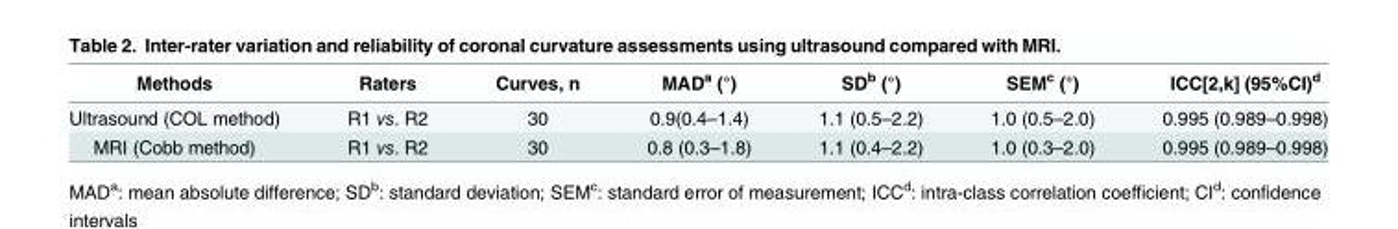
<table><thead><tr><td>Methods</td><td>Raters</td><td>Curves, n</td><td>MAD<sup>a</sup> (°)</td><td>SD<sup>b</sup> (°)</td><td>SEM<sup>c</sup> (°)</td><td>ICC[2,k] (95%CI)<sup>d</sup></td></tr></thead><tbody><tr><td>Ultrasound (COL method)</td><td>R1 vs. R2</td><td>30</td><td>0.9(0.4–1.4)</td><td>1.1 (0.5–2.2)</td><td>1.0 (0.5–2.0)</td><td>0.995 (0.989–0.998)</td></tr><tr><td>MRI (Cobb method)</td><td>R1 vs. R2</td><td>30</td><td>0.8 (0.3–1.8)</td><td>1.1 (0.4–2.2)</td><td>1.0 (0.3–2.0)</td><td>0.995 (0.989–0.998)</td></tr></tbody></table>